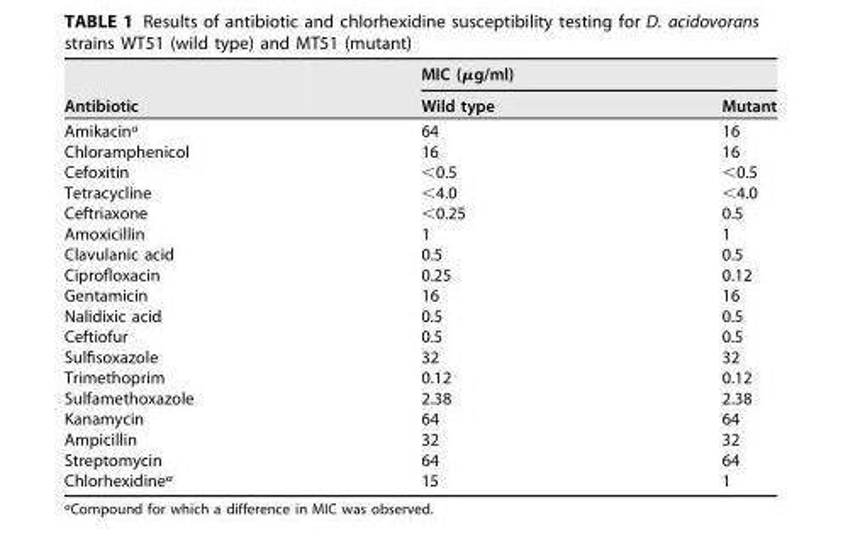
<table><thead><tr><td rowspan="2">Antibiotic</td><td colspan="2">MIC (µg/ml)</td></tr><tr><td>Wild type</td><td>Mutant</td></tr></thead><tbody><tr><td>Amikacin<sup>a</sup></td><td>64</td><td>16</td></tr><tr><td>Chloramphenicol</td><td>16</td><td>16</td></tr><tr><td>Cefoxitin</td><td>&lt;0.5</td><td>&lt;0.5</td></tr><tr><td>Tetracycline</td><td>&lt;4.0</td><td>&lt;4.0</td></tr><tr><td>Ceftriaxone</td><td>&lt;0.25</td><td>0.5</td></tr><tr><td>Amoxicillin</td><td>1</td><td>1</td></tr><tr><td>Clavulanic acid</td><td>0.5</td><td>0.5</td></tr><tr><td>Ciprofloxacin</td><td>0.25</td><td>0.12</td></tr><tr><td>Gentamicin</td><td>16</td><td>16</td></tr><tr><td>Nalidixic acid</td><td>0.5</td><td>0.5</td></tr><tr><td>Ceftiofur</td><td>0.5</td><td>0.5</td></tr><tr><td>Sulfisoxazole</td><td>32</td><td>32</td></tr><tr><td>Trimethoprim</td><td>0.12</td><td>0.12</td></tr><tr><td>Sulfamethoxazole</td><td>2.38</td><td>2.38</td></tr><tr><td>Kanamycin</td><td>64</td><td>64</td></tr><tr><td>Ampicillin</td><td>32</td><td>32</td></tr><tr><td>Streptomycin</td><td>64</td><td>64</td></tr><tr><td>Chlorhexidine<sup>a</sup></td><td>15</td><td>1</td></tr></tbody></table>